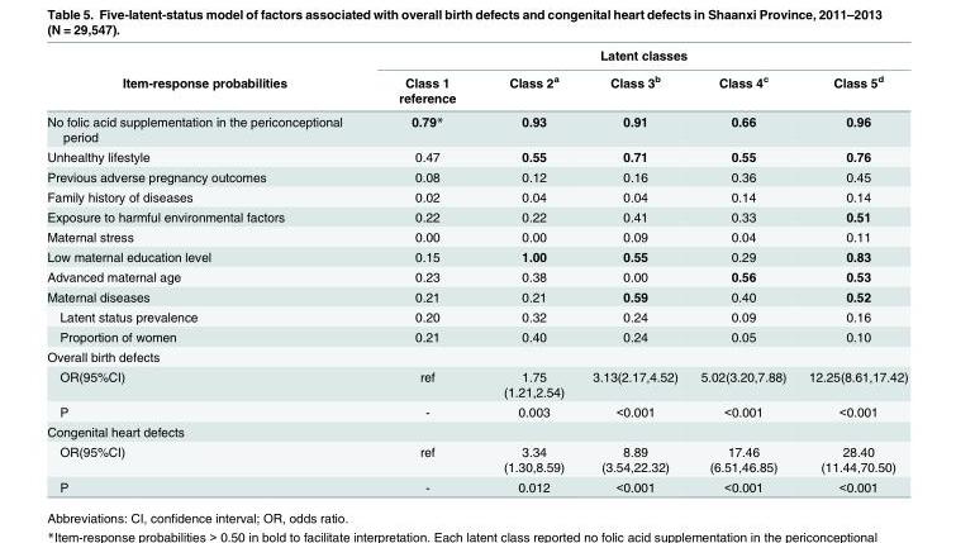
<table><thead><tr><td rowspan="2">Item-response probabilities</td><td colspan="5">Latent classes</td></tr><tr><td>Class 1 reference</td><td>Class 2<sup>a</sup></td><td>Class 3<sup>b</sup></td><td>Class 4<sup>c</sup></td><td>Class 5<sup>d</sup></td></tr></thead><tbody><tr><td>No folic acid supplementation in the periconceptional period</td><td>0.79*</td><td>0.93</td><td>0.91</td><td>0.66</td><td>0.96</td></tr><tr><td>Unhealthy lifestyle</td><td>0.47</td><td>0.55</td><td>0.71</td><td>0.55</td><td>0.76</td></tr><tr><td>Previous adverse pregnancy outcomes</td><td>0.08</td><td>0.12</td><td>0.16</td><td>0.36</td><td>0.45</td></tr><tr><td>Family history of diseases</td><td>0.02</td><td>0.04</td><td>0.04</td><td>0.14</td><td>0.14</td></tr><tr><td>Exposure to harmful environmental factors</td><td>0.22</td><td>0.22</td><td>0.41</td><td>0.33</td><td>0.51</td></tr><tr><td>Maternal stress</td><td>0.00</td><td>0.00</td><td>0.09</td><td>0.04</td><td>0.11</td></tr><tr><td>Low maternal education level</td><td>0.15</td><td>1.00</td><td>0.55</td><td>0.29</td><td>0.83</td></tr><tr><td>Advanced maternal age</td><td>0.23</td><td>0.38</td><td>0.00</td><td>0.56</td><td>0.53</td></tr><tr><td>Maternal diseases</td><td>0.21</td><td>0.21</td><td>0.59</td><td>0.40</td><td>0.52</td></tr><tr><td>Latent status prevalence</td><td>0.20</td><td>0.32</td><td>0.24</td><td>0.09</td><td>0.16</td></tr><tr><td>Proportion of women</td><td>0.21</td><td>0.40</td><td>0.24</td><td>0.05</td><td>0.10</td></tr><tr><td colspan="6">Overall birth defects</td></tr><tr><td>OR(95%CI)</td><td>ref</td><td>1.75 (1.21,2.54)</td><td>3.13(2.17,4.52)</td><td>5.02(3.20,7.88)</td><td>12.25(8.61,17.42)</td></tr><tr><td>P</td><td>-</td><td>0.003</td><td>&lt;0.001</td><td>&lt;0.001</td><td>&lt;0.001</td></tr><tr><td colspan="6">Congenital heart defects</td></tr><tr><td>OR(95%CI)</td><td>ref</td><td>3.34 (1.30,8.59)</td><td>8.89 (3.54,22.32)</td><td>17.46 (6.51,46.85)</td><td>28.40 (11.44,70.50)</td></tr><tr><td>P</td><td>-</td><td>0.012</td><td>&lt;0.001</td><td>&lt;0.001</td><td>&lt;0.001</td></tr></tbody></table>